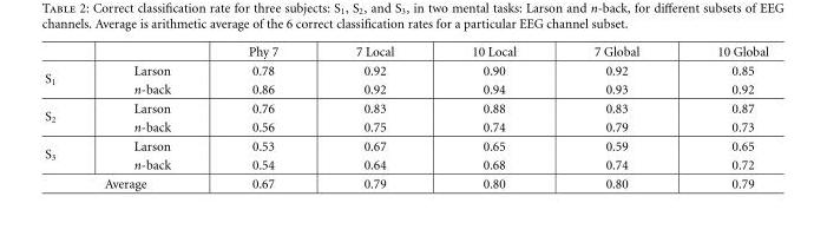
<table><thead><tr><td></td><td></td><td>Phy 7</td><td>7 Local</td><td>10 Local</td><td>7 Global</td><td>10 Global</td></tr></thead><tbody><tr><td rowspan="2">S<sub>1</sub></td><td>Larson</td><td>0.78</td><td>0.92</td><td>0.90</td><td>0.92</td><td>0.85</td></tr><tr><td>n-back</td><td>0.86</td><td>0.92</td><td>0.94</td><td>0.93</td><td>0.92</td></tr><tr><td rowspan="2">S<sub>2</sub></td><td>Larson</td><td>0.76</td><td>0.83</td><td>0.88</td><td>0.83</td><td>0.87</td></tr><tr><td>n-back</td><td>0.56</td><td>0.75</td><td>0.74</td><td>0.79</td><td>0.73</td></tr><tr><td rowspan="2">S<sub>3</sub></td><td>Larson</td><td>0.53</td><td>0.67</td><td>0.65</td><td>0.59</td><td>0.65</td></tr><tr><td>n-back</td><td>0.54</td><td>0.64</td><td>0.68</td><td>0.74</td><td>0.72</td></tr><tr><td colspan="2">Average</td><td>0.67</td><td>0.79</td><td>0.80</td><td>0.80</td><td>0.79</td></tr></tbody></table>